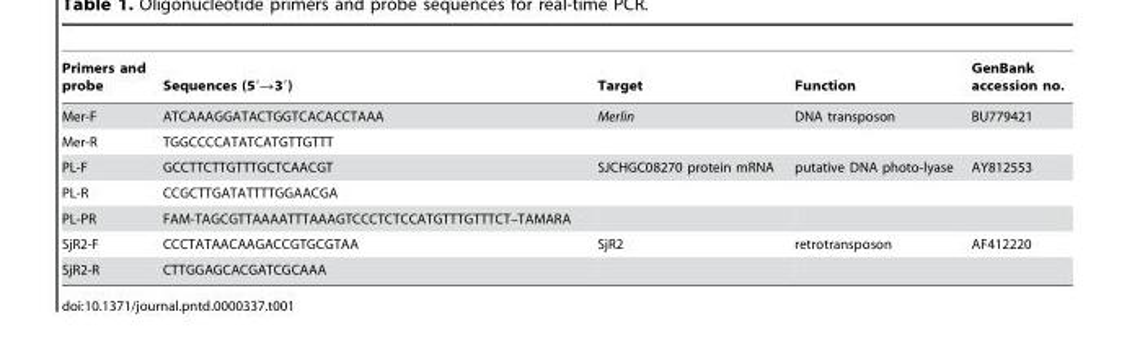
<table><thead><tr><td>Primers and probe</td><td>Sequences (5′→3′)</td><td>Target</td><td>Function</td><td>GenBank accession no.</td></tr></thead><tbody><tr><td>Mer-F</td><td>ATCAAAGGATACTGGTCACACCTAAA</td><td>Merlin</td><td>DNA transposon</td><td>BU779421</td></tr><tr><td>Mer-R</td><td>TGGCCCCATATCATGTTGTTT</td><td></td><td></td><td></td></tr><tr><td>PL-F</td><td>GCCTTCTTGTTTGCTCAACGT</td><td>SJCHGC08270 protein mRNA</td><td>putative DNA photo-lyase</td><td>AY812553</td></tr><tr><td>PL-R</td><td>CCGCTTGATATTTTGGAACGA</td><td></td><td></td><td></td></tr><tr><td>PL-PR</td><td>FAM-TAGCGTTAAAATTTAAAGTCCCTCTCCATGTTTGTTTCT–TAMARA</td><td></td><td></td><td></td></tr><tr><td>SjR2-F</td><td>CCCTATAACAAGACCGTGCGTAA</td><td>SjR2</td><td>retrotransposon</td><td>AF412220</td></tr><tr><td>SjR2-R</td><td>CTTGGAGCACGATCGCAAA</td><td></td><td></td><td></td></tr></tbody></table>